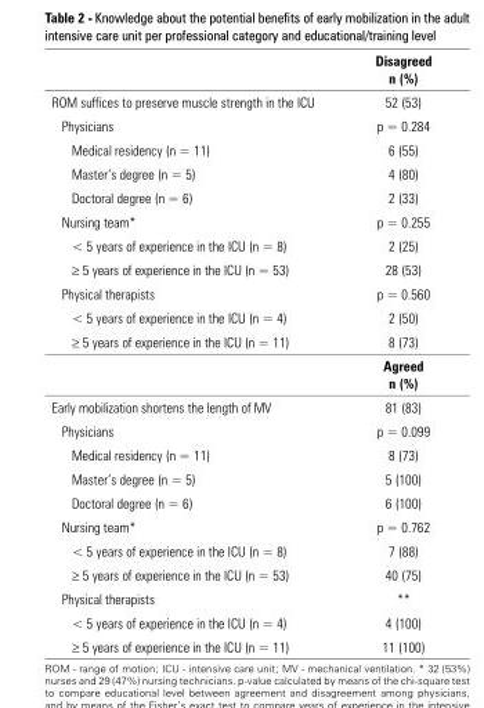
<table><thead><tr><td></td><td>Disagreed n (%)</td></tr></thead><tbody><tr><td>ROM suffices to preserve muscle strength in the ICU</td><td>52 (53)</td></tr><tr><td>Physicians</td><td>p = 0.284</td></tr><tr><td>Medical residency (n = 11)</td><td>6 (55)</td></tr><tr><td>Master’s degree (n = 5)</td><td>4 (80)</td></tr><tr><td>Doctoral degree (n = 6)</td><td>2 (33)</td></tr><tr><td>Nursing team*</td><td>p = 0.255</td></tr><tr><td>&lt; 5 years of experience in the ICU (n = 8)</td><td>2 (25)</td></tr><tr><td>≥ 5 years of experience in the ICU (n = 53)</td><td>28 (53)</td></tr><tr><td>Physical therapists</td><td>p = 0.560</td></tr><tr><td>&lt; 5 years of experience in the ICU (n = 4)</td><td>2 (50)</td></tr><tr><td rowspan="2">≥ 5 years of experience in the ICU (n = 11)</td><td>8 (73)</td></tr><tr><td>Agreed n (%)</td></tr><tr><td>Early mobilization shortens the length of MV</td><td>81 (83)</td></tr><tr><td>Physicians</td><td>p = 0.099</td></tr><tr><td>Medical residency (n = 11)</td><td>8 (73)</td></tr><tr><td>Master’s degree (n = 5)</td><td>5 (100)</td></tr><tr><td>Doctoral degree (n = 6)</td><td>6 (100)</td></tr><tr><td>Nursing team*</td><td>p = 0.762</td></tr><tr><td>&lt; 5 years of experience in the ICU (n = 8)</td><td>7 (88)</td></tr><tr><td>≥ 5 years of experience in the ICU (n = 53)</td><td>40 (75)</td></tr><tr><td>Physical therapists</td><td>**</td></tr><tr><td>&lt; 5 years of experience in the ICU (n = 4)</td><td>4 (100)</td></tr><tr><td>≥ 5 years of experience in the ICU (n = 11)</td><td>11 (100)</td></tr></tbody></table>